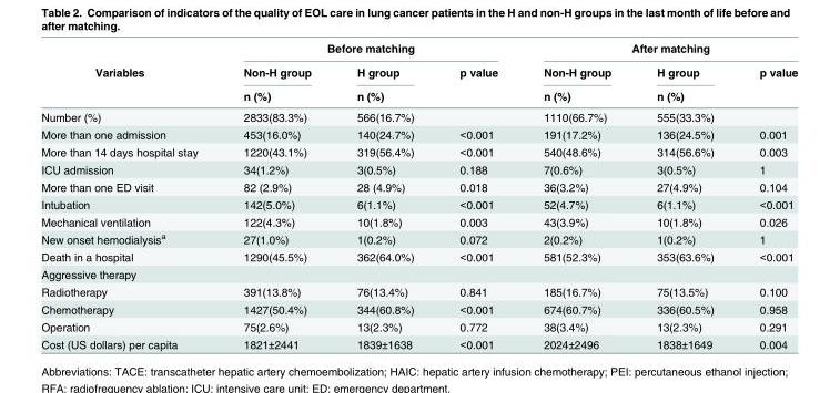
<table><thead><tr><td rowspan="3">Variables</td><td colspan="3">Before matching</td><td colspan="3">After matching</td></tr><tr><td rowspan="2">Non-H group n (%)</td><td rowspan="2">H group n (%)</td><td rowspan="2">p value</td><td rowspan="2">Non-H group n (%)</td><td rowspan="2">H group n (%)</td><td rowspan="2">p value</td></tr><tr></tr></thead><tbody><tr><td>Number (%)</td><td>2833(83.3%)</td><td>566(16.7%)</td><td></td><td>1110(66.7%)</td><td>555(33.3%)</td><td></td></tr><tr><td>More than one admission</td><td>453(16.0%)</td><td>140(24.7%)</td><td>&lt;0.001</td><td>191(17.2%)</td><td>136(24.5%)</td><td>0.001</td></tr><tr><td>More than 14 days hospital stay</td><td>1220(43.1%)</td><td>319(56.4%)</td><td>&lt;0.001</td><td>540(48.6%)</td><td>314(56.6%)</td><td>0.003</td></tr><tr><td>ICU admission</td><td>34(1.2%)</td><td>3(0.5%)</td><td>0.188</td><td>7(0.6%)</td><td>3(0.5%)</td><td>1</td></tr><tr><td>More than one ED visit</td><td>82 (2.9%)</td><td>28 (4.9%)</td><td>0.018</td><td>36(3.2%)</td><td>27(4.9%)</td><td>0.104</td></tr><tr><td>Intubation</td><td>142(5.0%)</td><td>6(1.1%)</td><td>&lt;0.001</td><td>52(4.7%)</td><td>6(1.1%)</td><td>&lt;0.001</td></tr><tr><td>Mechanical ventilation</td><td>122(4.3%)</td><td>10(1.8%)</td><td>0.003</td><td>43(3.9%)</td><td>10(1.8%)</td><td>0.026</td></tr><tr><td>New onset hemodialysis<sup>a</sup></td><td>27(1.0%)</td><td>1(0.2%)</td><td>0.072</td><td>2(0.2%)</td><td>1(0.2%)</td><td>1</td></tr><tr><td>Death in a hospital</td><td>1290(45.5%)</td><td>362(64.0%)</td><td>&lt;0.001</td><td>581(52.3%)</td><td>353(63.6%)</td><td>&lt;0.001</td></tr><tr><td colspan="7">Aggressive therapy</td></tr><tr><td>Radiotherapy</td><td>391(13.8%)</td><td>76(13.4%)</td><td>0.841</td><td>185(16.7%)</td><td>75(13.5%)</td><td>0.100</td></tr><tr><td>Chemotherapy</td><td>1427(50.4%)</td><td>344(60.8%)</td><td>&lt;0.001</td><td>674(60.7%)</td><td>336(60.5%)</td><td>0.958</td></tr><tr><td>Operation</td><td>75(2.6%)</td><td>13(2.3%)</td><td>0.772</td><td>38(3.4%)</td><td>13(2.3%)</td><td>0.291</td></tr><tr><td>Cost (US dollars) per capita</td><td>1821±2441</td><td>1839±1638</td><td>&lt;0.001</td><td>2024±2496</td><td>1838±1649</td><td>0.004</td></tr></tbody></table>